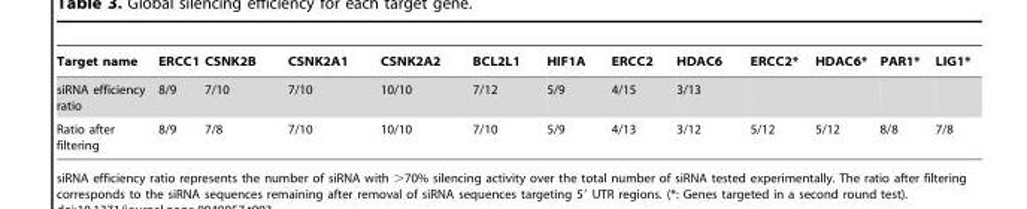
<table><thead><tr><td>Target name</td><td>ERCC1</td><td>CSNK2B</td><td>CSNK2A1</td><td>CSNK2A2</td><td>BCL2L1</td><td>HIF1A</td><td>ERCC2</td><td>HDAC6</td><td>ERCC2*</td><td>HDAC6*</td><td>PAR1*</td><td>LIG1*</td></tr></thead><tbody><tr><td>siRNA efficiency ratio</td><td>8/9</td><td>7/10</td><td>7/10</td><td>10/10</td><td>7/12</td><td>5/9</td><td>4/15</td><td>3/13</td><td></td><td></td><td></td><td></td></tr><tr><td>Ratio after filtering</td><td>8/9</td><td>7/8</td><td>7/10</td><td>10/10</td><td>7/10</td><td>5/9</td><td>4/13</td><td>3/12</td><td>5/12</td><td>5/12</td><td>8/8</td><td>7/8</td></tr></tbody></table>